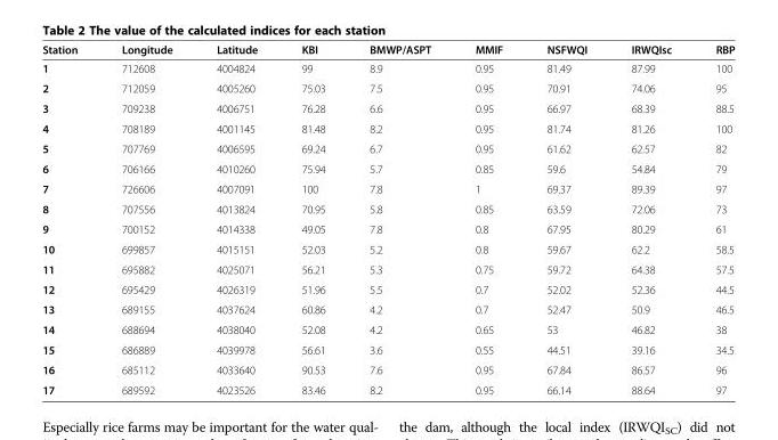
<table><thead><tr><td>Station</td><td>Longitude</td><td>Latitude</td><td>KBI</td><td>BMWP/ASPT</td><td>MMIF</td><td>NSFWQI</td><td>IRWQIsc</td><td>RBP</td></tr></thead><tbody><tr><td>1</td><td>712608</td><td>4004824</td><td>99</td><td>8.9</td><td>0.95</td><td>81.49</td><td>87.99</td><td>100</td></tr><tr><td>2</td><td>712059</td><td>4005260</td><td>75.03</td><td>7.5</td><td>0.95</td><td>70.91</td><td>74.06</td><td>95</td></tr><tr><td>3</td><td>709238</td><td>4006751</td><td>76.28</td><td>6.6</td><td>0.95</td><td>66.97</td><td>68.39</td><td>88.5</td></tr><tr><td>4</td><td>708189</td><td>4001145</td><td>81.48</td><td>8.2</td><td>0.95</td><td>81.74</td><td>81.26</td><td>100</td></tr><tr><td>5</td><td>707769</td><td>4006595</td><td>69.24</td><td>6.7</td><td>0.95</td><td>61.62</td><td>62.57</td><td>82</td></tr><tr><td>6</td><td>706166</td><td>4010260</td><td>75.94</td><td>5.7</td><td>0.85</td><td>59.6</td><td>54.84</td><td>79</td></tr><tr><td>7</td><td>726606</td><td>4007091</td><td>100</td><td>7.8</td><td>1</td><td>69.37</td><td>89.39</td><td>97</td></tr><tr><td>8</td><td>707556</td><td>4013824</td><td>70.95</td><td>5.8</td><td>0.85</td><td>63.59</td><td>72.06</td><td>73</td></tr><tr><td>9</td><td>700152</td><td>4014338</td><td>49.05</td><td>7.8</td><td>0.8</td><td>67.95</td><td>80.29</td><td>61</td></tr><tr><td>10</td><td>699857</td><td>4015151</td><td>52.03</td><td>5.2</td><td>0.8</td><td>59.67</td><td>62.2</td><td>58.5</td></tr><tr><td>11</td><td>695882</td><td>4025071</td><td>56.21</td><td>5.3</td><td>0.75</td><td>59.72</td><td>64.38</td><td>57.5</td></tr><tr><td>12</td><td>695429</td><td>4026319</td><td>51.96</td><td>5.5</td><td>0.7</td><td>52.02</td><td>52.36</td><td>44.5</td></tr><tr><td>13</td><td>689155</td><td>4037624</td><td>60.86</td><td>4.2</td><td>0.7</td><td>52.47</td><td>50.9</td><td>46.5</td></tr><tr><td>14</td><td>688694</td><td>4038040</td><td>52.08</td><td>4.2</td><td>0.65</td><td>53</td><td>46.82</td><td>38</td></tr><tr><td>15</td><td>686889</td><td>4039978</td><td>56.61</td><td>3.6</td><td>0.55</td><td>44.51</td><td>39.16</td><td>34.5</td></tr><tr><td>16</td><td>685112</td><td>4033640</td><td>90.53</td><td>7.6</td><td>0.95</td><td>67.84</td><td>86.57</td><td>96</td></tr><tr><td>17</td><td>689592</td><td>4023526</td><td>83.46</td><td>8.2</td><td>0.95</td><td>66.14</td><td>88.64</td><td>97</td></tr></tbody></table>